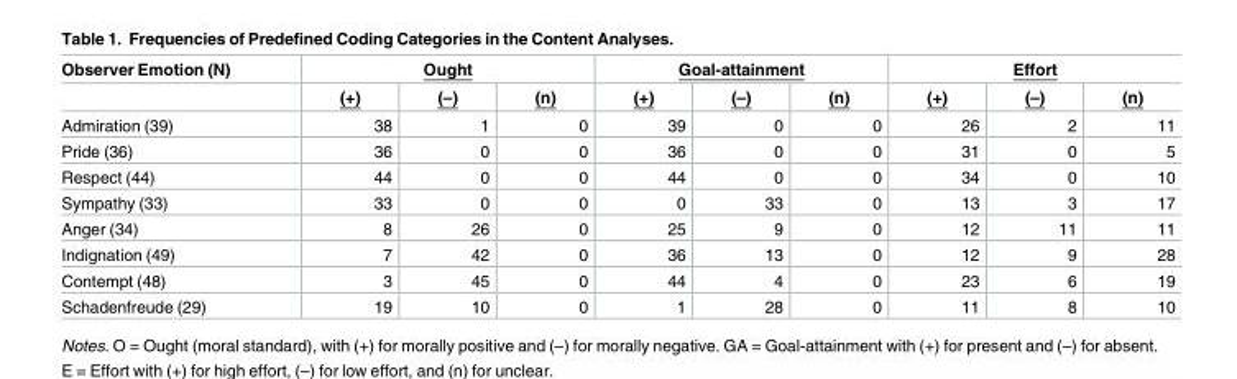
<table><thead><tr><td rowspan="2">Observer Emotion (N)</td><td colspan="3">Ought</td><td colspan="3">Goal-attainment</td><td colspan="3">Effort</td></tr><tr><td>(+)</td><td>(–)</td><td>(n)</td><td>(+)</td><td>(–)</td><td>(n)</td><td>(+)</td><td>(–)</td><td>(n)</td></tr></thead><tbody><tr><td>Admiration (39)</td><td>38</td><td>1</td><td>0</td><td>39</td><td>0</td><td>0</td><td>26</td><td>2</td><td>11</td></tr><tr><td>Pride (36)</td><td>36</td><td>0</td><td>0</td><td>36</td><td>0</td><td>0</td><td>31</td><td>0</td><td>5</td></tr><tr><td>Respect (44)</td><td>44</td><td>0</td><td>0</td><td>44</td><td>0</td><td>0</td><td>34</td><td>0</td><td>10</td></tr><tr><td>Sympathy (33)</td><td>33</td><td>0</td><td>0</td><td>0</td><td>33</td><td>0</td><td>13</td><td>3</td><td>17</td></tr><tr><td>Anger (34)</td><td>8</td><td>26</td><td>0</td><td>25</td><td>9</td><td>0</td><td>12</td><td>11</td><td>11</td></tr><tr><td>Indignation (49)</td><td>7</td><td>42</td><td>0</td><td>36</td><td>13</td><td>0</td><td>12</td><td>9</td><td>28</td></tr><tr><td>Contempt (48)</td><td>3</td><td>45</td><td>0</td><td>44</td><td>4</td><td>0</td><td>23</td><td>6</td><td>19</td></tr><tr><td>Schadenfreude (29)</td><td>19</td><td>10</td><td>0</td><td>1</td><td>28</td><td>0</td><td>11</td><td>8</td><td>10</td></tr></tbody></table>